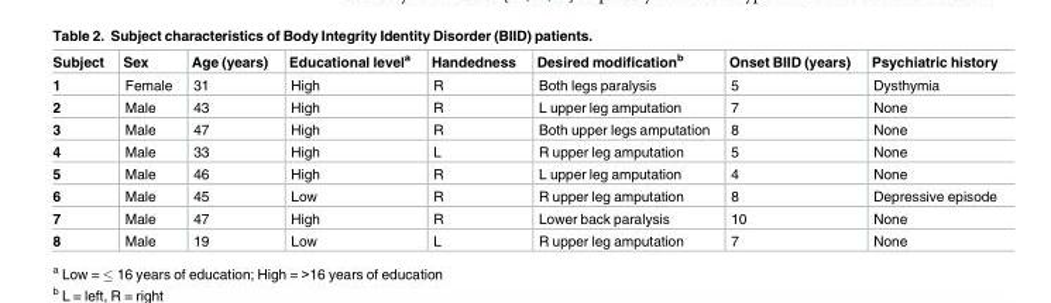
<table><thead><tr><td>Subject</td><td>Sex</td><td>Age (years)</td><td>Educational level<sup>a</sup></td><td>Handedness</td><td>Desired modification<sup>b</sup></td><td>Onset BIID (years)</td><td>Psychiatric history</td></tr></thead><tbody><tr><td>1</td><td>Female</td><td>31</td><td>High</td><td>R</td><td>Both legs paralysis</td><td>5</td><td>Dysthymia</td></tr><tr><td>2</td><td>Male</td><td>43</td><td>High</td><td>R</td><td>L upper leg amputation</td><td>7</td><td>None</td></tr><tr><td>3</td><td>Male</td><td>47</td><td>High</td><td>R</td><td>Both upper legs amputation</td><td>8</td><td>None</td></tr><tr><td>4</td><td>Male</td><td>33</td><td>High</td><td>L</td><td>R upper leg amputation</td><td>5</td><td>None</td></tr><tr><td>5</td><td>Male</td><td>46</td><td>High</td><td>R</td><td>L upper leg amputation</td><td>4</td><td>None</td></tr><tr><td>6</td><td>Male</td><td>45</td><td>Low</td><td>R</td><td>R upper leg amputation</td><td>8</td><td>Depressive episode</td></tr><tr><td>7</td><td>Male</td><td>47</td><td>High</td><td>R</td><td>Lower back paralysis</td><td>10</td><td>None</td></tr><tr><td>8</td><td>Male</td><td>19</td><td>Low</td><td>L</td><td>R upper leg amputation</td><td>7</td><td>None</td></tr></tbody></table>